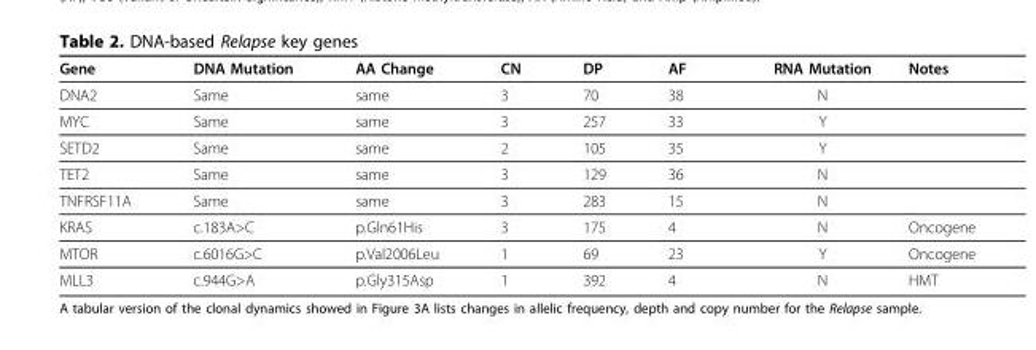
<table><thead><tr><td>Gene</td><td>DNA Mutation</td><td>AA Change</td><td>CN</td><td>DP</td><td>AF</td><td>RNA Mutation</td><td>Notes</td></tr></thead><tbody><tr><td>DNA2</td><td>Same</td><td>same</td><td>3</td><td>70</td><td>38</td><td>N</td><td></td></tr><tr><td>MYC</td><td>Same</td><td>same</td><td>3</td><td>257</td><td>33</td><td>Y</td><td></td></tr><tr><td>SETD2</td><td>Same</td><td>same</td><td>2</td><td>105</td><td>35</td><td>Y</td><td></td></tr><tr><td>TET2</td><td>Same</td><td>same</td><td>3</td><td>129</td><td>36</td><td>N</td><td></td></tr><tr><td>TNFRSF11A</td><td>Same</td><td>same</td><td>3</td><td>283</td><td>15</td><td>N</td><td></td></tr><tr><td>KRAS</td><td>c.183A&gt;C</td><td>p.Gln61His</td><td>3</td><td>175</td><td>4</td><td>N</td><td>Oncogene</td></tr><tr><td>MTOR</td><td>c.6016G&gt;C</td><td>p.Val2006Leu</td><td>1</td><td>69</td><td>23</td><td>Y</td><td>Oncogene</td></tr><tr><td>MLL3</td><td>c.944G&gt;A</td><td>p.Gly315Asp</td><td>1</td><td>392</td><td>4</td><td>N</td><td>HMT</td></tr></tbody></table>